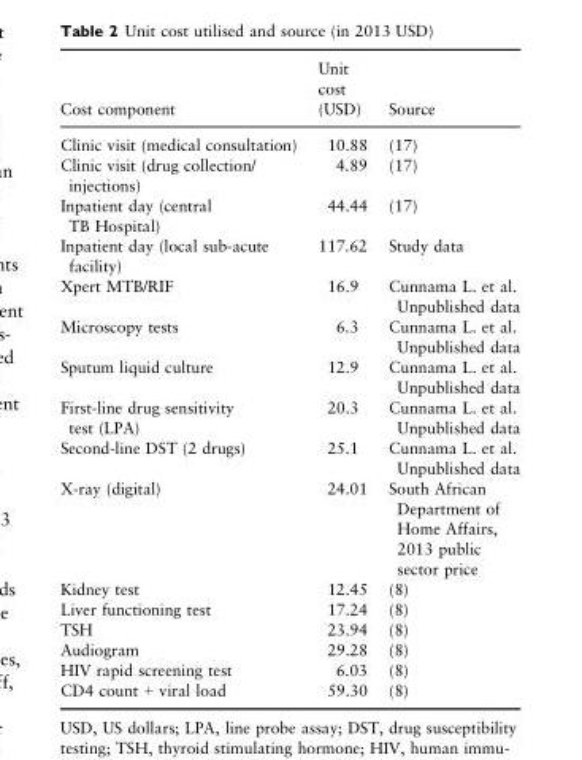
<table><thead><tr><td>Cost component</td><td>Unit cost (USD)</td><td>Source</td></tr></thead><tbody><tr><td>Clinic visit (medical consultation)</td><td>10.88</td><td>(17)</td></tr><tr><td>Clinic visit (drug collection/ injections)</td><td>4.89</td><td>(17)</td></tr><tr><td>Inpatient day (central TB Hospital)</td><td>44.44</td><td>(17)</td></tr><tr><td>Inpatient day (local sub-acute facility)</td><td>117.62</td><td>Study data</td></tr><tr><td>Xpert MTB/RIF</td><td>16.9</td><td>Cunnama L. et al. Unpublished data</td></tr><tr><td>Microscopy tests</td><td>6.3</td><td>Cunnama L. et al. Unpublished data</td></tr><tr><td>Sputum liquid culture</td><td>12.9</td><td>Cunnama L. et al. Unpublished data</td></tr><tr><td>First-line drug sensitivity test (LPA)</td><td>20.3</td><td>Cunnama L. et al. Unpublished data</td></tr><tr><td>Second-line DST (2 drugs)</td><td>25.1</td><td>Cunnama L. et al. Unpublished data</td></tr><tr><td>X-ray (digital)</td><td>24.01</td><td>South African Department of Home Affairs, 2013 public sector price</td></tr><tr><td>Kidney test</td><td>12.45</td><td>(8)</td></tr><tr><td>Liver functioning test</td><td>17.24</td><td>(8)</td></tr><tr><td>TSH</td><td>23.94</td><td>(8)</td></tr><tr><td>Audiogram</td><td>29.28</td><td>(8)</td></tr><tr><td>HIV rapid screening test</td><td>6.03</td><td>(8)</td></tr><tr><td>CD4 count + viral load</td><td>59.30</td><td>(8)</td></tr></tbody></table>